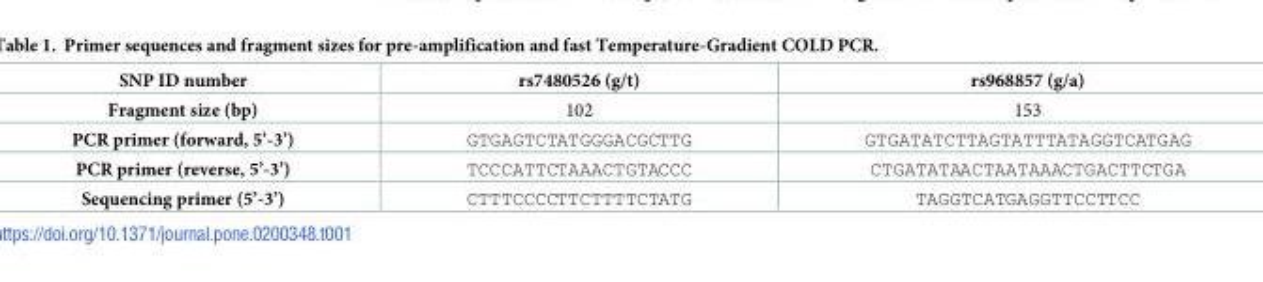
<table><thead><tr><td>SNP ID number</td><td>rs7480526 (g/t)</td><td>rs968857 (g/a)</td></tr></thead><tbody><tr><td>Fragment size (bp)</td><td>102</td><td>153</td></tr><tr><td>PCR primer (forward, 5’-3’)</td><td>GTGAGTCTATGGGACGCTTG</td><td>GTGATATCTTAGTATTTATAGGTCATGAG</td></tr><tr><td>PCR primer (reverse, 5’-3’)</td><td>TCCCATTCTAAACTGTACCC</td><td>CTGATATAACTAATAAACTGACTTCTGA</td></tr><tr><td>Sequencing primer (5’-3’)</td><td>CTTTCCCCTTCTTTTCTATG</td><td>TAGGTCATGAGGTTCCTTCC</td></tr></tbody></table>